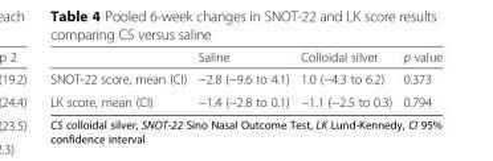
<table><thead><tr><td></td><td>Saline</td><td>Colloidal silver</td><td>p value</td></tr></thead><tbody><tr><td>SNOT-22 score, mean (CI)</td><td>−2.8 (−9.6 to 4.1)</td><td>1.0 (−4.3 to 6.2)</td><td>0.373</td></tr><tr><td>LK score, mean (CI)</td><td>−1.4 (−2.8 to 0.1)</td><td>−1.1 (−2.5 to 0.3)</td><td>0.794</td></tr></tbody></table>